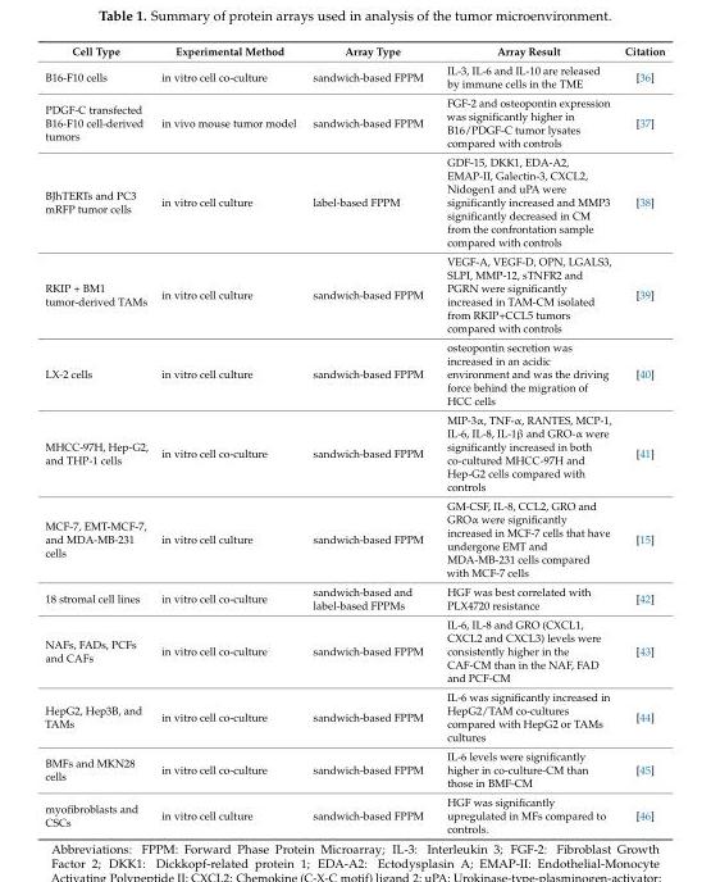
<table><thead><tr><td>Cell Type</td><td>Experimental Method</td><td>Array Type</td><td>Array Result</td><td>Citation</td></tr></thead><tbody><tr><td>B16-F10 cells</td><td>in vitro cell co-culture</td><td>sandwich-based FPPM</td><td>IL-3, IL-6 and IL-10 are released by immune cells in the TME</td><td>[36]</td></tr><tr><td>PDGF-C transfected B16-F10 cell-derived tumors</td><td>in vivo mouse tumor model</td><td>sandwich-based FPPM</td><td>FGF-2 and osteopontin expression was significantly higher in B16/PDGF-C tumor lysates compared with controls</td><td>[37]</td></tr><tr><td>BJhTERTs and PC3 mRFP tumor cells</td><td>in vitro cell culture</td><td>label-based FPPM</td><td>GDF-15, DKK1, EDA-A2, EMAP-II, Galectin-3, CXCL2, Nidogen1 and uPA were significantly increased and MMP3 significantly decreased in CM from the confrontation sample compared with controls</td><td>[38]</td></tr><tr><td>RKIP + BM1 tumor-derived TAMs</td><td>in vitro cell culture</td><td>sandwich-based FPPM</td><td>VEGF-A, VEGF-D, OPN, LGALS3, SLPI, MMP-12, sTNFR2 and PGRN were significantly increased in TAM-CM isolated from RKIP+CCL5 tumors compared with controls</td><td>[39]</td></tr><tr><td>LX-2 cells</td><td>in vitro cell culture</td><td>sandwich-based FPPM</td><td>osteopontin secretion was increased in an acidic environment and was the driving force behind the migration of HCC cells</td><td>[40]</td></tr><tr><td>MHCC-97H, Hep-G2, and THP-1 cells</td><td>in vitro cell co-culture</td><td>sandwich-based FPPM</td><td>MIP-3α, TNF-α, RANTES, MCP-1, IL-6, IL-8, IL-1β and GRO-α were significantly increased in both co-cultured MHCC-97H and Hep-G2 cells compared with controls</td><td>[41]</td></tr><tr><td>MCF-7, EMT-MCF-7, and MDA-MB-231 cells</td><td>in vitro cell culture</td><td>sandwich-based FPPM</td><td>GM-CSF, IL-8, CCL2, GRO and GROα were significantly increased in MCF-7 cells that have undergone EMT and MDA-MB-231 cells compared with MCF-7 cells</td><td>[15]</td></tr><tr><td>18 stromal cell lines</td><td>in vitro cell co-culture</td><td>sandwich-based and label-based FPPMs</td><td>HGF was best correlated with PLX4720 resistance</td><td>[42]</td></tr><tr><td>NAFs, FADs, PCFs and CAFs</td><td>in vitro cell co-culture</td><td>sandwich-based FPPM</td><td>IL-6, IL-8 and GRO (CXCL1, CXCL2 and CXCL3) levels were consistently higher in the CAF-CM than in the NAF, FAD and PCF-CM</td><td>[43]</td></tr><tr><td>HepG2, Hep3B, and TAMs</td><td>in vitro cell co-culture</td><td>sandwich-based FPPM</td><td>IL-6 was significantly increased in HepG2/TAM co-cultures compared with HepG2 or TAMs cultures</td><td>[44]</td></tr><tr><td>BMFs and MKN28 cells</td><td>in vitro cell co-culture</td><td>sandwich-based FPPM</td><td>IL-6 levels were significantly higher in co-culture-CM than those in BMF-CM</td><td>[45]</td></tr><tr><td>myofibroblasts and CSCs</td><td>in vitro cell culture</td><td>sandwich-based FPPM</td><td>HGF was significantly upregulated in MFs compared to controls.</td><td>[46]</td></tr></tbody></table>